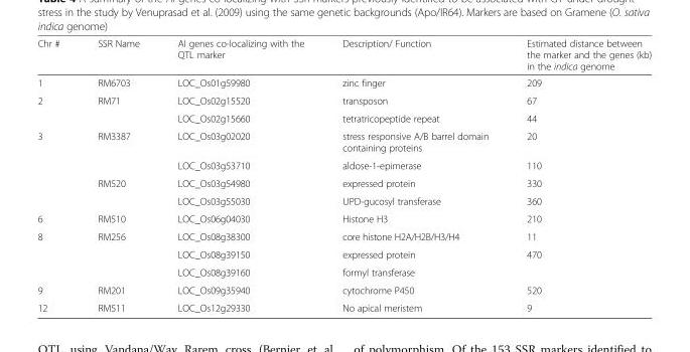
<table><thead><tr><td>Chr #</td><td>SSR Name</td><td>AI genes co-localizing with the QTL marker</td><td>Description/ Function</td><td>Estimated distance between the marker and the genes (kb) in the indica genome</td></tr></thead><tbody><tr><td>1</td><td>RM6703</td><td>LOC_Os01g59980</td><td>zinc finger</td><td>209</td></tr><tr><td rowspan="2">2</td><td rowspan="2">RM71</td><td>LOC_Os02g15520</td><td>transposon</td><td>67</td></tr><tr><td>LOC_Os02g15660</td><td>tetratricopeptide repeat</td><td>44</td></tr><tr><td rowspan="4">3</td><td rowspan="2">RM3387</td><td>LOC_Os03g02020</td><td>stress responsive A/B barrel domain containing proteins</td><td>20</td></tr><tr><td>LOC_Os03g53710</td><td>aldose-1-epimerase</td><td>110</td></tr><tr><td rowspan="2">RM520</td><td>LOC_Os03g54980</td><td>expressed protein</td><td>330</td></tr><tr><td>LOC_Os03g55030</td><td>UPD-gucosyl transferase</td><td>360</td></tr><tr><td>6</td><td>RM510</td><td>LOC_Os06g04030</td><td>Histone H3</td><td>210</td></tr><tr><td rowspan="3">8</td><td rowspan="3">RM256</td><td>LOC_Os08g38300</td><td>core histone H2A/H2B/H3/H4</td><td>11</td></tr><tr><td>LOC_Os08g39150</td><td>expressed protein</td><td rowspan="2">470</td></tr><tr><td>LOC_Os08g39160</td><td>formyl transferase</td></tr><tr><td>9</td><td>RM201</td><td>LOC_Os09g35940</td><td>cytochrome P450</td><td>520</td></tr><tr><td>12</td><td>RM511</td><td>LOC_Os12g29330</td><td>No apical meristem</td><td>9</td></tr></tbody></table>